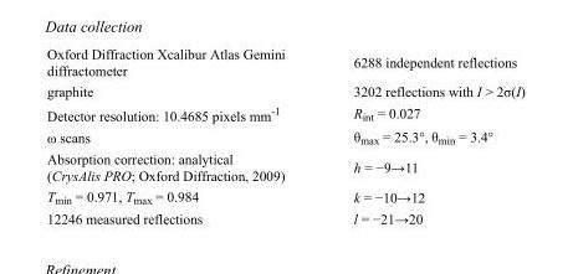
<table><tbody><tr><td>Oxford Diffraction Xcalibur Atlas Gemini diffractometer</td><td>6288 independent reflections</td></tr><tr><td>graphite</td><td>3202 reflections with I &gt; 2σ(I)</td></tr><tr><td>Detector resolution: 10.4685 pixels mm<sup>-1</sup></td><td>R<sub>int</sub> = 0.027</td></tr><tr><td>ω scans</td><td>θ<sub>max</sub> = 25.3°, θ<sub>min</sub> = 3.4°</td></tr><tr><td>Absorption correction: analytical (CrysAlis PRO; Oxford Diffraction, 2009)</td><td>h = −9→11</td></tr><tr><td>T<sub>min</sub> = 0.971, T<sub>max</sub> = 0.984</td><td>k = −10→12</td></tr><tr><td>12246 measured reflections</td><td>l = −21→20</td></tr></tbody></table>